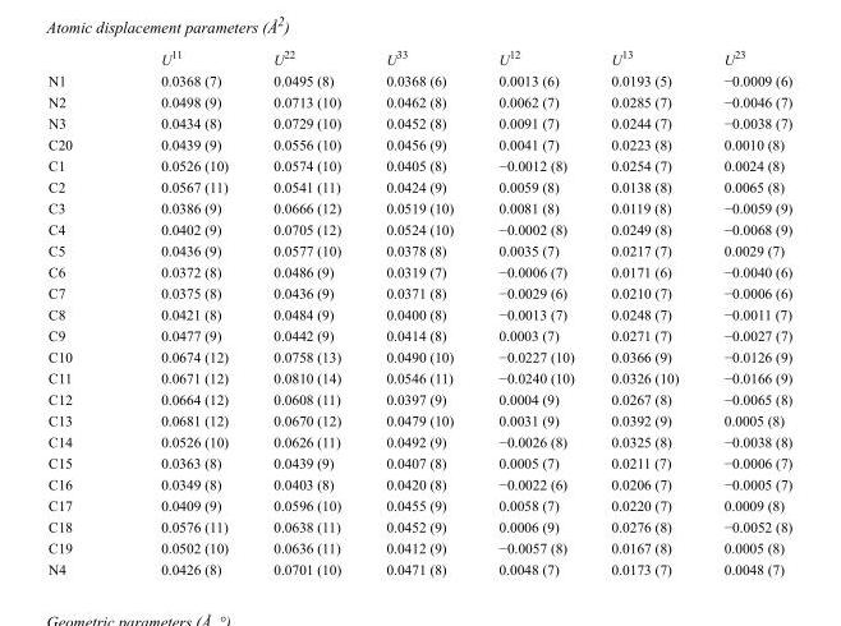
<table><thead><tr><td></td><td>U<sup>11</sup></td><td>U<sup>22</sup></td><td>U<sup>33</sup></td><td>U<sup>12</sup></td><td>U<sup>13</sup></td><td>U<sup>23</sup></td></tr></thead><tbody><tr><td>N1</td><td>0.0368 (7)</td><td>0.0495 (8)</td><td>0.0368 (6)</td><td>0.0013 (6)</td><td>0.0193 (5)</td><td>−0.0009 (6)</td></tr><tr><td>N2</td><td>0.0498 (9)</td><td>0.0713 (10)</td><td>0.0462 (8)</td><td>0.0062 (7)</td><td>0.0285 (7)</td><td>−0.0046 (7)</td></tr><tr><td>N3</td><td>0.0434 (8)</td><td>0.0729 (10)</td><td>0.0452 (8)</td><td>0.0091 (7)</td><td>0.0244 (7)</td><td>−0.0038 (7)</td></tr><tr><td>C20</td><td>0.0439 (9)</td><td>0.0556 (10)</td><td>0.0456 (9)</td><td>0.0041 (7)</td><td>0.0223 (8)</td><td>0.0010 (8)</td></tr><tr><td>C1</td><td>0.0526 (10)</td><td>0.0574 (10)</td><td>0.0405 (8)</td><td>−0.0012 (8)</td><td>0.0254 (7)</td><td>0.0024 (8)</td></tr><tr><td>C2</td><td>0.0567 (11)</td><td>0.0541 (11)</td><td>0.0424 (9)</td><td>0.0059 (8)</td><td>0.0138 (8)</td><td>0.0065 (8)</td></tr><tr><td>C3</td><td>0.0386 (9)</td><td>0.0666 (12)</td><td>0.0519 (10)</td><td>0.0081 (8)</td><td>0.0119 (8)</td><td>−0.0059 (9)</td></tr><tr><td>C4</td><td>0.0402 (9)</td><td>0.0705 (12)</td><td>0.0524 (10)</td><td>−0.0002 (8)</td><td>0.0249 (8)</td><td>−0.0068 (9)</td></tr><tr><td>C5</td><td>0.0436 (9)</td><td>0.0577 (10)</td><td>0.0378 (8)</td><td>0.0035 (7)</td><td>0.0217 (7)</td><td>0.0029 (7)</td></tr><tr><td>C6</td><td>0.0372 (8)</td><td>0.0486 (9)</td><td>0.0319 (7)</td><td>−0.0006 (7)</td><td>0.0171 (6)</td><td>−0.0040 (6)</td></tr><tr><td>C7</td><td>0.0375 (8)</td><td>0.0436 (9)</td><td>0.0371 (8)</td><td>−0.0029 (6)</td><td>0.0210 (7)</td><td>−0.0006 (6)</td></tr><tr><td>C8</td><td>0.0421 (8)</td><td>0.0484 (9)</td><td>0.0400 (8)</td><td>−0.0013 (7)</td><td>0.0248 (7)</td><td>−0.0011 (7)</td></tr><tr><td>C9</td><td>0.0477 (9)</td><td>0.0442 (9)</td><td>0.0414 (8)</td><td>0.0003 (7)</td><td>0.0271 (7)</td><td>−0.0027 (7)</td></tr><tr><td>C10</td><td>0.0674 (12)</td><td>0.0758 (13)</td><td>0.0490 (10)</td><td>−0.0227 (10)</td><td>0.0366 (9)</td><td>−0.0126 (9)</td></tr><tr><td>C11</td><td>0.0671 (12)</td><td>0.0810 (14)</td><td>0.0546 (11)</td><td>−0.0240 (10)</td><td>0.0326 (10)</td><td>−0.0166 (9)</td></tr><tr><td>C12</td><td>0.0664 (12)</td><td>0.0608 (11)</td><td>0.0397 (9)</td><td>0.0004 (9)</td><td>0.0267 (8)</td><td>−0.0065 (8)</td></tr><tr><td>C13</td><td>0.0681 (12)</td><td>0.0670 (12)</td><td>0.0479 (10)</td><td>0.0031 (9)</td><td>0.0392 (9)</td><td>0.0005 (8)</td></tr><tr><td>C14</td><td>0.0526 (10)</td><td>0.0626 (11)</td><td>0.0492 (9)</td><td>−0.0026 (8)</td><td>0.0325 (8)</td><td>−0.0038 (8)</td></tr><tr><td>C15</td><td>0.0363 (8)</td><td>0.0439 (9)</td><td>0.0407 (8)</td><td>0.0005 (7)</td><td>0.0211 (7)</td><td>−0.0006 (7)</td></tr><tr><td>C16</td><td>0.0349 (8)</td><td>0.0403 (8)</td><td>0.0420 (8)</td><td>−0.0022 (6)</td><td>0.0206 (7)</td><td>−0.0005 (7)</td></tr><tr><td>C17</td><td>0.0409 (9)</td><td>0.0596 (10)</td><td>0.0455 (9)</td><td>0.0058 (7)</td><td>0.0220 (7)</td><td>0.0009 (8)</td></tr><tr><td>C18</td><td>0.0576 (11)</td><td>0.0638 (11)</td><td>0.0452 (9)</td><td>0.0006 (9)</td><td>0.0276 (8)</td><td>−0.0052 (8)</td></tr><tr><td>C19</td><td>0.0502 (10)</td><td>0.0636 (11)</td><td>0.0412 (9)</td><td>−0.0057 (8)</td><td>0.0167 (8)</td><td>0.0005 (8)</td></tr><tr><td>N4</td><td>0.0426 (8)</td><td>0.0701 (10)</td><td>0.0471 (8)</td><td>0.0048 (7)</td><td>0.0173 (7)</td><td>0.0048 (7)</td></tr></tbody></table>